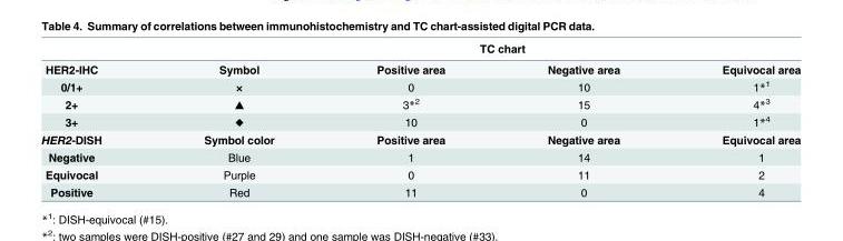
<table><thead><tr><td rowspan="2">HER2-IHC</td><td colspan="4">TC chart</td></tr><tr><td>Symbol</td><td>Positive area</td><td>Negative area</td><td>Equivocal area</td></tr></thead><tbody><tr><td>0/1+</td><td>×</td><td>0</td><td>10</td><td>1*<sup>1</sup></td></tr><tr><td>2+</td><td>▲</td><td>3*<sup>2</sup></td><td>15</td><td>4*<sup>3</sup></td></tr><tr><td>3+</td><td>◆</td><td>10</td><td>0</td><td>1*<sup>4</sup></td></tr><tr><td>HER2-DISH</td><td>Symbol color</td><td>Positive area</td><td>Negative area</td><td>Equivocal area</td></tr><tr><td>Negative</td><td>Blue</td><td>1</td><td>14</td><td>1</td></tr><tr><td>Equivocal</td><td>Purple</td><td>0</td><td>11</td><td>2</td></tr><tr><td>Positive</td><td>Red</td><td>11</td><td>0</td><td>4</td></tr></tbody></table>